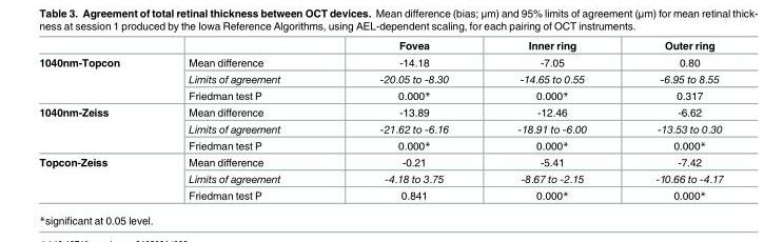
<table><thead><tr><td></td><td></td><td>Fovea</td><td>Inner ring</td><td>Outer ring</td></tr></thead><tbody><tr><td rowspan="3">1040nm-Topcon</td><td>Mean difference</td><td>-14.18</td><td>-7.05</td><td>0.80</td></tr><tr><td>Limits of agreement</td><td>-20.05 to -8.30</td><td>-14.65 to 0.55</td><td>-6.95 to 8.55</td></tr><tr><td>Friedman test P</td><td>0.000*</td><td>0.000*</td><td>0.317</td></tr><tr><td rowspan="3">1040nm-Zeiss</td><td>Mean difference</td><td>-13.89</td><td>-12.46</td><td>-6.62</td></tr><tr><td>Limits of agreement</td><td>-21.62 to -6.16</td><td>-18.91 to -6.00</td><td>-13.53 to 0.30</td></tr><tr><td>Friedman test P</td><td>0.000*</td><td>0.000*</td><td>0.000*</td></tr><tr><td rowspan="3">Topcon-Zeiss</td><td>Mean difference</td><td>-0.21</td><td>-5.41</td><td>-7.42</td></tr><tr><td>Limits of agreement</td><td>-4.18 to 3.75</td><td>-8.67 to -2.15</td><td>-10.66 to -4.17</td></tr><tr><td>Friedman test P</td><td>0.841</td><td>0.000*</td><td>0.000*</td></tr></tbody></table>